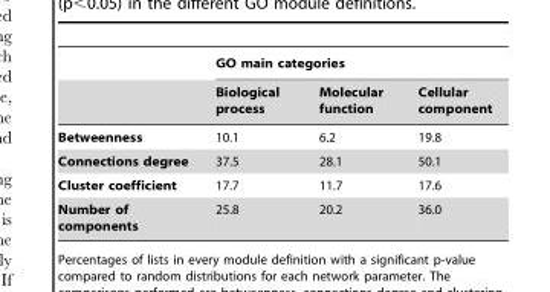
<table><thead><tr><td rowspan="2"></td><td colspan="3">GO main categories</td></tr><tr><td>Biological process</td><td>Molecular function</td><td>Cellular component</td></tr></thead><tbody><tr><td>Betweenness</td><td>10.1</td><td>6.2</td><td>19.8</td></tr><tr><td>Connections degree</td><td>37.5</td><td>28.1</td><td>50.1</td></tr><tr><td>Cluster coefficient</td><td>17.7</td><td>11.7</td><td>17.6</td></tr><tr><td>Number of components</td><td>25.8</td><td>20.2</td><td>36.0</td></tr></tbody></table>